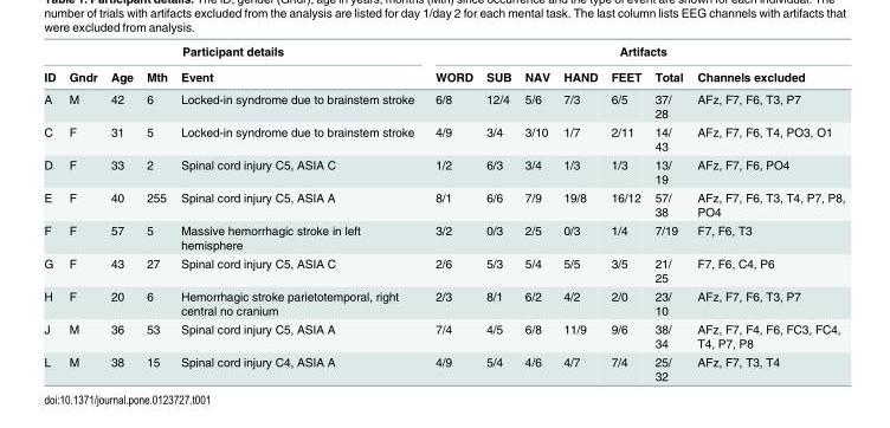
<table><thead><tr><td colspan="5">Participant details</td><td colspan="7">Artifacts</td></tr><tr><td>ID</td><td>Gndr</td><td>Age</td><td>Mth</td><td>Event</td><td>WORD</td><td>SUB</td><td>NAV</td><td>HAND</td><td>FEET</td><td>Total</td><td>Channels excluded</td></tr></thead><tbody><tr><td>A</td><td>M</td><td>42</td><td>6</td><td>Locked-in syndrome due to brainstem stroke</td><td>6/8</td><td>12/4</td><td>5/6</td><td>7/3</td><td>6/5</td><td>37/ 28</td><td>AFz, F7, F6, T3, P7</td></tr><tr><td>C</td><td>F</td><td>31</td><td>5</td><td>Locked-in syndrome due to brainstem stroke</td><td>4/9</td><td>3/4</td><td>3/10</td><td>1/7</td><td>2/11</td><td>14/ 43</td><td>AFz, F7, F6, T4, PO3, O1</td></tr><tr><td>D</td><td>F</td><td>33</td><td>2</td><td>Spinal cord injury C5, ASIA C</td><td>1/2</td><td>6/3</td><td>3/4</td><td>1/3</td><td>1/3</td><td>13/ 19</td><td>AFz, F7, F6, PO4</td></tr><tr><td>E</td><td>F</td><td>40</td><td>255</td><td>Spinal cord injury C5, ASIA A</td><td>8/1</td><td>6/6</td><td>7/9</td><td>19/8</td><td>16/12</td><td>57/ 38</td><td>AFz, F7, F6, T3, T4, P7, P8, PO4</td></tr><tr><td>F</td><td>F</td><td>57</td><td>5</td><td>Massive hemorrhagic stroke in left hemisphere</td><td>3/2</td><td>0/3</td><td>2/5</td><td>0/3</td><td>1/4</td><td>7/19</td><td>F7, F6, T3</td></tr><tr><td>G</td><td>F</td><td>43</td><td>27</td><td>Spinal cord injury C5, ASIA C</td><td>2/6</td><td>5/3</td><td>5/4</td><td>5/5</td><td>3/5</td><td>21/ 25</td><td>F7, F6, C4, P6</td></tr><tr><td>H</td><td>F</td><td>20</td><td>6</td><td>Hemorrhagic stroke parietotemporal, right central no cranium</td><td>2/3</td><td>8/1</td><td>6/2</td><td>4/2</td><td>2/0</td><td>23/ 10</td><td>AFz, F7, F6, T3, P7</td></tr><tr><td>J</td><td>M</td><td>36</td><td>53</td><td>Spinal cord injury C5, ASIA A</td><td>7/4</td><td>4/5</td><td>6/8</td><td>11/9</td><td>9/6</td><td>38/ 34</td><td>AFz, F7, F4, F6, FC3, FC4, T4, P7, P8</td></tr><tr><td>L</td><td>M</td><td>38</td><td>15</td><td>Spinal cord injury C4, ASIA A</td><td>4/9</td><td>5/4</td><td>4/6</td><td>4/7</td><td>7/4</td><td>25/ 32</td><td>AFz, F7, T3, T4</td></tr></tbody></table>